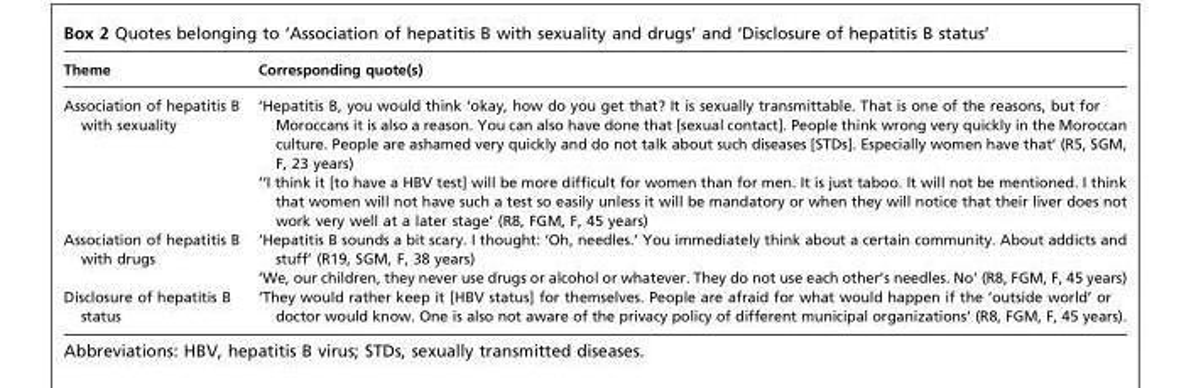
<table><thead><tr><td>Theme</td><td>Corresponding quote(s)</td></tr></thead><tbody><tr><td rowspan="2">Association of hepatitis B with sexuality</td><td>‘Hepatitis B, you would think ‘okay, how do you get that? It is sexually transmittable. That is one of the reasons, but for Moroccans it is also a reason. You can also have done that [sexual contact]. People think wrong very quickly in the Moroccan culture. People are ashamed very quickly and do not talk about such diseases [STDs]. Especially women have that’ (R5, SGM, F, 23 years)</td></tr><tr><td>‘‘I think it [to have a HBV test] will be more difficult for women than for men. It is just taboo. It will not be mentioned. I think that women will not have such a test so easily unless it will be mandatory or when they will notice that their liver does not work very well at a later stage’ (R8, FGM, F, 45 years)</td></tr><tr><td rowspan="2">Association of hepatitis B with drugs</td><td>‘Hepatitis B sounds a bit scary. I thought: ‘Oh, needles.’ You immediately think about a certain community. About addicts and stuff’ (R19, SGM, F, 38 years)</td></tr><tr><td>‘We, our children, they never use drugs or alcohol or whatever. They do not use each other’s needles. No’ (R8, FGM, F, 45 years)</td></tr><tr><td>Disclosure of hepatitis B status</td><td>‘They would rather keep it [HBV status] for themselves. People are afraid for what would happen if the ‘outside world’ or doctor would know. One is also not aware of the privacy policy of different municipal organizations’ (R8, FGM, F, 45 years).</td></tr></tbody></table>